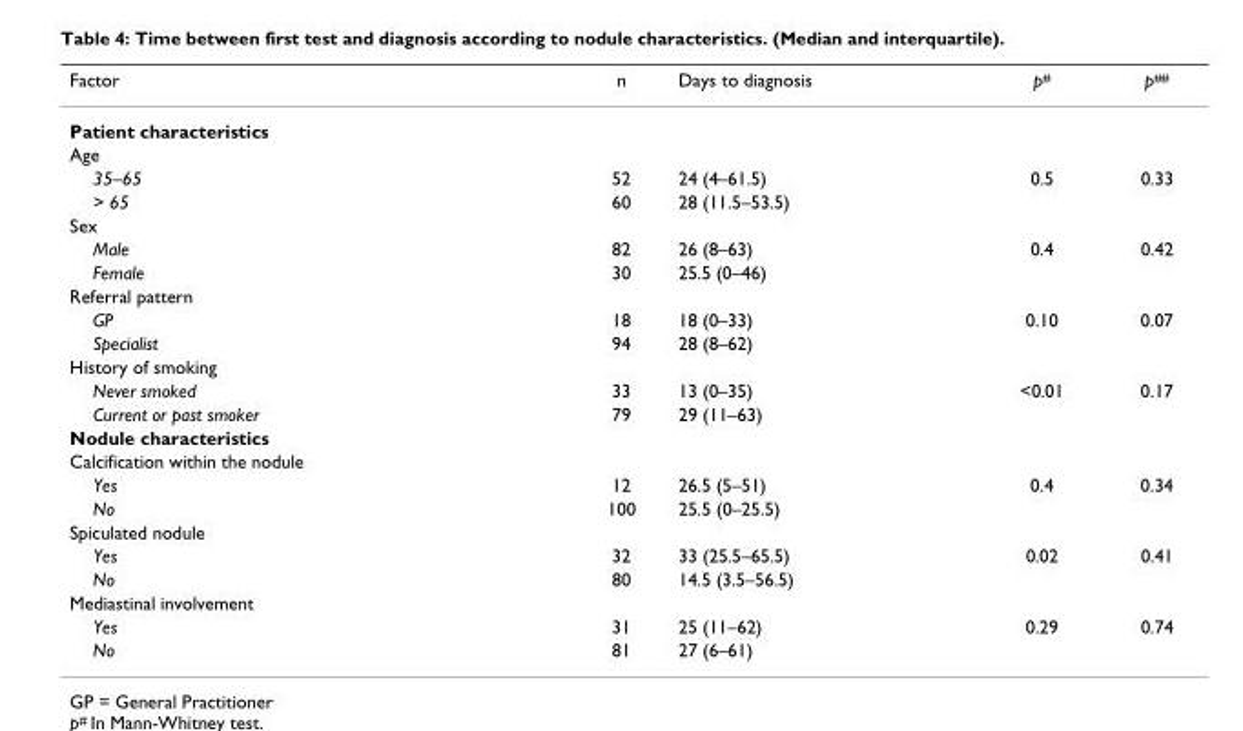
<table><thead><tr><td>Factor</td><td>n</td><td>Days to diagnosis</td><td>p<sup>#</sup></td><td>p<sup>##</sup></td></tr></thead><tbody><tr><td colspan="5">Patient characteristics</td></tr><tr><td colspan="5">Age</td></tr><tr><td>35–65</td><td>52</td><td>24 (4–61.5)</td><td>0.5</td><td>0.33</td></tr><tr><td>&gt; 65</td><td>60</td><td>28 (11.5–53.5)</td><td></td><td></td></tr><tr><td colspan="5">Sex</td></tr><tr><td>Male</td><td>82</td><td>26 (8–63)</td><td>0.4</td><td>0.42</td></tr><tr><td>Female</td><td>30</td><td>25.5 (0–46)</td><td></td><td></td></tr><tr><td colspan="5">Referral pattern</td></tr><tr><td>GP</td><td>18</td><td>18 (0–33)</td><td>0.10</td><td>0.07</td></tr><tr><td>Specialist</td><td>94</td><td>28 (8–62)</td><td></td><td></td></tr><tr><td colspan="5">History of smoking</td></tr><tr><td>Never smoked</td><td>33</td><td>13 (0–35)</td><td>&lt;0.01</td><td>0.17</td></tr><tr><td>Current or past smoker</td><td>79</td><td>29 (11–63)</td><td></td><td></td></tr><tr><td colspan="5">Nodule characteristics</td></tr><tr><td colspan="5">Calcification within the nodule</td></tr><tr><td>Yes</td><td>12</td><td>26.5 (5–51)</td><td>0.4</td><td>0.34</td></tr><tr><td>No</td><td>100</td><td>25.5 (0–25.5)</td><td></td><td></td></tr><tr><td colspan="5">Spiculated nodule</td></tr><tr><td>Yes</td><td>32</td><td>33 (25.5–65.5)</td><td>0.02</td><td>0.41</td></tr><tr><td>No</td><td>80</td><td>14.5 (3.5–56.5)</td><td></td><td></td></tr><tr><td colspan="5">Mediastinal involvement</td></tr><tr><td>Yes</td><td>31</td><td>25 (11–62)</td><td>0.29</td><td>0.74</td></tr><tr><td>No</td><td>81</td><td>27 (6–61)</td><td></td><td></td></tr></tbody></table>